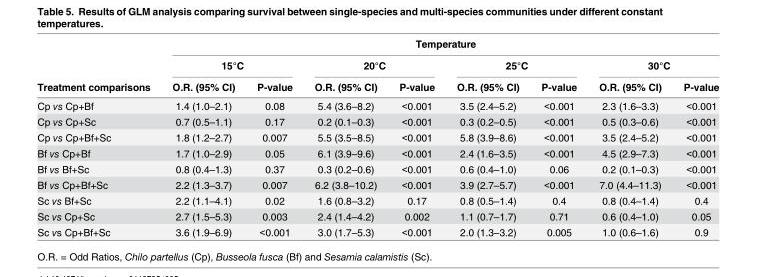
<table><thead><tr><td rowspan="3">Treatment comparisons</td><td colspan="8">Temperature</td></tr><tr><td colspan="2">15°C</td><td colspan="2">20°C</td><td colspan="2">25°C</td><td colspan="2">30°C</td></tr><tr><td>O.R. (95% CI)</td><td>P-value</td><td>O.R. (95% CI)</td><td>P-value</td><td>O.R. (95% CI)</td><td>P-value</td><td>O.R. (95% CI)</td><td>P-value</td></tr></thead><tbody><tr><td>Cp vs Cp+Bf</td><td>1.4 (1.0–2.1)</td><td>0.08</td><td>5.4 (3.6–8.2)</td><td>&lt;0.001</td><td>3.5 (2.4–5.2)</td><td>&lt;0.001</td><td>2.3 (1.6–3.3)</td><td>&lt;0.001</td></tr><tr><td>Cp vs Cp+Sc</td><td>0.7 (0.5–1.1)</td><td>0.17</td><td>0.2 (0.1–0.3)</td><td>&lt;0.001</td><td>0.3 (0.2–0.5)</td><td>&lt;0.001</td><td>0.5 (0.3–0.6)</td><td>&lt;0.001</td></tr><tr><td>Cp vs Cp+Bf+Sc</td><td>1.8 (1.2–2.7)</td><td>0.007</td><td>5.5 (3.5–8.5)</td><td>&lt;0.001</td><td>5.8 (3.9–8.6)</td><td>&lt;0.001</td><td>3.5 (2.4–5.2)</td><td>&lt;0.001</td></tr><tr><td>Bf vs Cp+Bf</td><td>1.7 (1.0–2.9)</td><td>0.05</td><td>6.1 (3.9–9.6)</td><td>&lt;0.001</td><td>2.4 (1.6–3.5)</td><td>&lt;0.001</td><td>4.5 (2.9–7.3)</td><td>&lt;0.001</td></tr><tr><td>Bf vs Bf+Sc</td><td>0.8 (0.4–1.3)</td><td>0.37</td><td>0.3 (0.2–0.6)</td><td>&lt;0.001</td><td>0.6 (0.4–1.0)</td><td>0.06</td><td>0.2 (0.1–0.3)</td><td>&lt;0.001</td></tr><tr><td>Bf vs Cp+Bf+Sc</td><td>2.2 (1.3–3.7)</td><td>0.007</td><td>6.2 (3.8–10.2)</td><td>&lt;0.001</td><td>3.9 (2.7–5.7)</td><td>&lt;0.001</td><td>7.0 (4.4–11.3)</td><td>&lt;0.001</td></tr><tr><td>Sc vs Bf+Sc</td><td>2.2 (1.1–4.1)</td><td>0.02</td><td>1.6 (0.8–3.2)</td><td>0.17</td><td>0.8 (0.5–1.4)</td><td>0.4</td><td>0.8 (0.4–1.4)</td><td>0.4</td></tr><tr><td>Sc vs Cp+Sc</td><td>2.7 (1.5–5.3)</td><td>0.003</td><td>2.4 (1.4–4.2)</td><td>0.002</td><td>1.1 (0.7–1.7)</td><td>0.71</td><td>0.6 (0.4–1.0)</td><td>0.05</td></tr><tr><td>Sc vs Cp+Bf+Sc</td><td>3.6 (1.9–6.9)</td><td>&lt;0.001</td><td>3.0 (1.7–5.3)</td><td>&lt;0.001</td><td>2.0 (1.3–3.2)</td><td>0.005</td><td>1.0 (0.6–1.6)</td><td>0.9</td></tr></tbody></table>